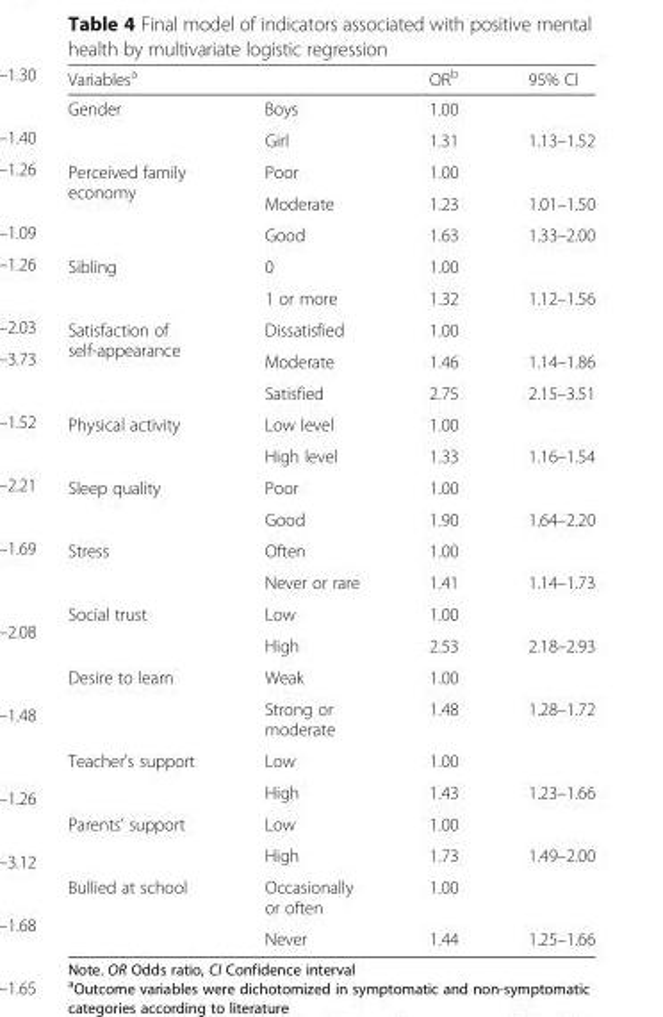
<table><thead><tr><td>Variables<sup>a</sup></td><td></td><td>OR<sup>b</sup></td><td>95% CI</td></tr></thead><tbody><tr><td rowspan="2">Gender</td><td>Boys</td><td>1.00</td><td></td></tr><tr><td>Girl</td><td>1.31</td><td>1.13–1.52</td></tr><tr><td rowspan="3">Perceived family economy</td><td>Poor</td><td>1.00</td><td></td></tr><tr><td>Moderate</td><td>1.23</td><td>1.01–1.50</td></tr><tr><td>Good</td><td>1.63</td><td>1.33–2.00</td></tr><tr><td rowspan="2">Sibling</td><td>0</td><td>1.00</td><td></td></tr><tr><td>1 or more</td><td>1.32</td><td>1.12–1.56</td></tr><tr><td rowspan="3">Satisfaction of self-appearance</td><td>Dissatisfied</td><td>1.00</td><td></td></tr><tr><td>Moderate</td><td>1.46</td><td>1.14–1.86</td></tr><tr><td>Satisfied</td><td>2.75</td><td>2.15–3.51</td></tr><tr><td rowspan="2">Physical activity</td><td>Low level</td><td>1.00</td><td></td></tr><tr><td>High level</td><td>1.33</td><td>1.16–1.54</td></tr><tr><td rowspan="2">Sleep quality</td><td>Poor</td><td>1.00</td><td></td></tr><tr><td>Good</td><td>1.90</td><td>1.64–2.20</td></tr><tr><td rowspan="2">Stress</td><td>Often</td><td>1.00</td><td></td></tr><tr><td>Never or rare</td><td>1.41</td><td>1.14–1.73</td></tr><tr><td rowspan="2">Social trust</td><td>Low</td><td>1.00</td><td></td></tr><tr><td>High</td><td>2.53</td><td>2.18–2.93</td></tr><tr><td rowspan="2">Desire to learn</td><td>Weak</td><td>1.00</td><td></td></tr><tr><td>Strong or moderate</td><td>1.48</td><td>1.28–1.72</td></tr><tr><td rowspan="2">Teacher’s support</td><td>Low</td><td>1.00</td><td></td></tr><tr><td>High</td><td>1.43</td><td>1.23–1.66</td></tr><tr><td rowspan="2">Parents’ support</td><td>Low</td><td>1.00</td><td></td></tr><tr><td>High</td><td>1.73</td><td>1.49–2.00</td></tr><tr><td rowspan="2">Bullied at school</td><td>Occasionally or often</td><td>1.00</td><td></td></tr><tr><td>Never</td><td>1.44</td><td>1.25–1.66</td></tr></tbody></table>